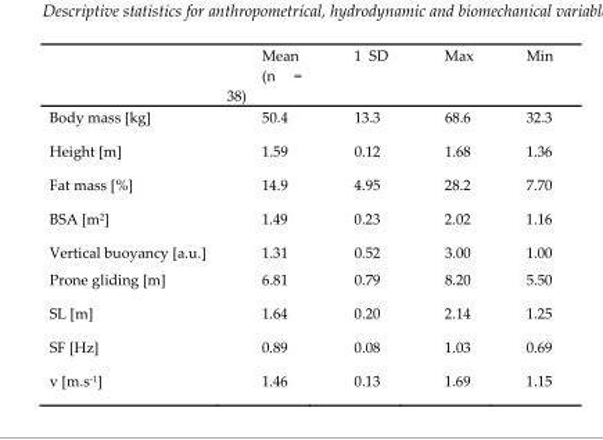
<table><thead><tr><td></td><td>Mean (n = 38)</td><td>1 SD</td><td>Max</td><td>Min</td></tr></thead><tbody><tr><td>Body mass [kg]</td><td>50.4</td><td>13.3</td><td>68.6</td><td>32.3</td></tr><tr><td>Height [m]</td><td>1.59</td><td>0.12</td><td>1.68</td><td>1.36</td></tr><tr><td>Fat mass [%]</td><td>14.9</td><td>4.95</td><td>28.2</td><td>7.70</td></tr><tr><td>BSA [m<sup>2</sup>]</td><td>1.49</td><td>0.23</td><td>2.02</td><td>1.16</td></tr><tr><td>Vertical buoyancy [a.u.]</td><td>1.31</td><td>0.52</td><td>3.00</td><td>1.00</td></tr><tr><td>Prone gliding [m]</td><td>6.81</td><td>0.79</td><td>8.20</td><td>5.50</td></tr><tr><td>SL [m]</td><td>1.64</td><td>0.20</td><td>2.14</td><td>1.25</td></tr><tr><td>SF [Hz]</td><td>0.89</td><td>0.08</td><td>1.03</td><td>0.69</td></tr><tr><td>v [m.s<sup>-1</sup>]</td><td>1.46</td><td>0.13</td><td>1.69</td><td>1.15</td></tr></tbody></table>